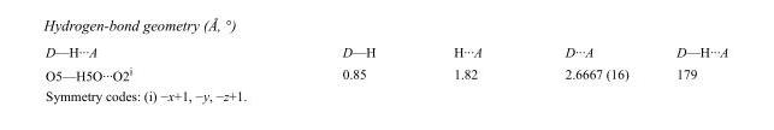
<table><tbody><tr><td>D—H···A</td><td>D—H</td><td>H···A</td><td>D···A</td><td>D—H···A</td></tr><tr><td>O5—H5O···O2<sup>i</sup></td><td>0.85</td><td>1.82</td><td>2.6667 (16)</td><td>179</td></tr></tbody></table>